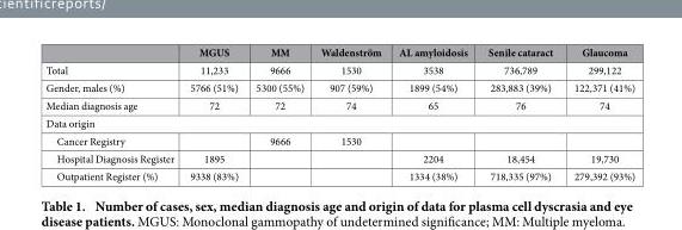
<table><thead><tr><td></td><td>MGUS</td><td>MM</td><td>Waldenström</td><td>AL amyloidosis</td><td>Senile cataract</td><td>Glaucoma</td></tr></thead><tbody><tr><td>Total</td><td>11,233</td><td>9666</td><td>1530</td><td>3538</td><td>736,789</td><td>299,122</td></tr><tr><td>Gender, males (%)</td><td>5766 (51%)</td><td>5300 (55%)</td><td>907 (59%)</td><td>1899 (54%)</td><td>283,883 (39%)</td><td>122,371 (41%)</td></tr><tr><td>Median diagnosis age</td><td>72</td><td>72</td><td>74</td><td>65</td><td>76</td><td>74</td></tr><tr><td colspan="7">Data origin</td></tr><tr><td>Cancer Registry</td><td></td><td>9666</td><td>1530</td><td></td><td></td><td></td></tr><tr><td>Hospital Diagnosis Register</td><td>1895</td><td></td><td></td><td>2204</td><td>18,454</td><td>19,730</td></tr><tr><td>Outpatient Register (%)</td><td>9338 (83%)</td><td></td><td></td><td>1334 (38%)</td><td>718,335 (97%)</td><td>279,392 (93%)</td></tr></tbody></table>